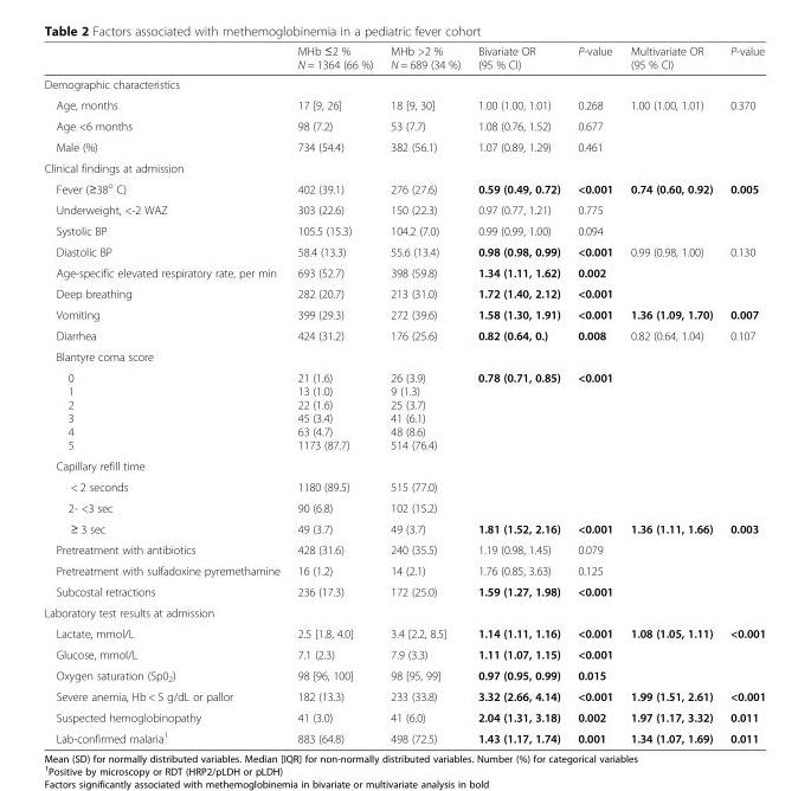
<table><thead><tr><td></td><td>MHb ≤2 % N = 1364 (66 %)</td><td>MHb &gt;2 % N = 689 (34 %)</td><td>Bivariate OR (95 % CI)</td><td>P-value</td><td>Multivariate OR (95 % CI)</td><td>P-value</td></tr></thead><tbody><tr><td colspan="7">Demographic characteristics</td></tr><tr><td>Age, months</td><td>17 [9, 26]</td><td>18 [9, 30]</td><td>1.00 (1.00, 1.01)</td><td>0.268</td><td>1.00 (1.00, 1.01)</td><td>0.370</td></tr><tr><td>Age &lt;6 months</td><td>98 (7.2)</td><td>53 (7.7)</td><td>1.08 (0.76, 1.52)</td><td>0.677</td><td></td><td></td></tr><tr><td>Male (%)</td><td>734 (54.4)</td><td>382 (56.1)</td><td>1.07 (0.89, 1.29)</td><td>0.461</td><td></td><td></td></tr><tr><td colspan="7">Clinical findings at admission</td></tr><tr><td>Fever (≥38<sup>o</sup> C)</td><td>402 (39.1)</td><td>276 (27.6)</td><td>0.59 (0.49, 0.72)</td><td>&lt;0.001</td><td>0.74 (0.60, 0.92)</td><td>0.005</td></tr><tr><td>Underweight, &lt;-2 WAZ</td><td>303 (22.6)</td><td>150 (22.3)</td><td>0.97 (0.77, 1.21)</td><td>0.775</td><td></td><td></td></tr><tr><td>Systolic BP</td><td>105.5 (15.3)</td><td>104.2 (7.0)</td><td>0.99 (0.99, 1.00)</td><td>0.094</td><td></td><td></td></tr><tr><td>Diastolic BP</td><td>58.4 (13.3)</td><td>55.6 (13.4)</td><td>0.98 (0.98, 0.99)</td><td>&lt;0.001</td><td>0.99 (0.98, 1.00)</td><td>0.130</td></tr><tr><td>Age-specific elevated respiratory rate, per min</td><td>693 (52.7)</td><td>398 (59.8)</td><td>1.34 (1.11, 1.62)</td><td>0.002</td><td></td><td></td></tr><tr><td>Deep breathing</td><td>282 (20.7)</td><td>213 (31.0)</td><td>1.72 (1.40, 2.12)</td><td>&lt;0.001</td><td></td><td></td></tr><tr><td>Vomiting</td><td>399 (29.3)</td><td>272 (39.6)</td><td>1.58 (1.30, 1.91)</td><td>&lt;0.001</td><td>1.36 (1.09, 1.70)</td><td>0.007</td></tr><tr><td>Diarrhea</td><td>424 (31.2)</td><td>176 (25.6)</td><td>0.82 (0.64, 0.)</td><td>0.008</td><td>0.82 (0.64, 1.04)</td><td>0.107</td></tr><tr><td colspan="7">Blantyre coma score</td></tr><tr><td>0 1 2 3 4 5</td><td>21 (1.6) 13 (1.0) 22 (1.6) 45 (3.4) 63 (4.7) 1173 (87.7)</td><td>26 (3.9) 9 (1.3) 25 (3.7) 41 (6.1) 48 (8.6) 514 (76.4)</td><td>0.78 (0.71, 0.85)</td><td>&lt;0.001</td><td></td><td></td></tr><tr><td colspan="7">Capillary refill time</td></tr><tr><td>&lt; 2 seconds</td><td>1180 (89.5)</td><td>515 (77.0)</td><td></td><td></td><td></td><td></td></tr><tr><td>2- &lt;3 sec</td><td>90 (6.8)</td><td>102 (15.2)</td><td></td><td></td><td></td><td></td></tr><tr><td>≥ 3 sec</td><td>49 (3.7)</td><td>49 (3.7)</td><td>1.81 (1.52, 2.16)</td><td>&lt;0.001</td><td>1.36 (1.11, 1.66)</td><td>0.003</td></tr><tr><td>Pretreatment with antibiotics</td><td>428 (31.6)</td><td>240 (35.5)</td><td>1.19 (0.98, 1.45)</td><td>0.079</td><td></td><td></td></tr><tr><td>Pretreatment with sulfadoxine pyremethamine</td><td>16 (1.2)</td><td>14 (2.1)</td><td>1.76 (0.85, 3.63)</td><td>0.125</td><td></td><td></td></tr><tr><td>Subcostal retractions</td><td>236 (17.3)</td><td>172 (25.0)</td><td>1.59 (1.27, 1.98)</td><td>&lt;0.001</td><td></td><td></td></tr><tr><td colspan="7">Laboratory test results at admission</td></tr><tr><td>Lactate, mmol/L</td><td>2.5 [1.8, 4.0]</td><td>3.4 [2.2, 8.5]</td><td>1.14 (1.11, 1.16)</td><td>&lt;0.001</td><td>1.08 (1.05, 1.11)</td><td>&lt;0.001</td></tr><tr><td>Glucose, mmol/L</td><td>7.1 (2.3)</td><td>7.9 (3.3)</td><td>1.11 (1.07, 1.15)</td><td>&lt;0.001</td><td></td><td></td></tr><tr><td>Oxygen saturation (Sp0<sub>2</sub>)</td><td>98 [96, 100]</td><td>98 [95, 99]</td><td>0.97 (0.95, 0.99)</td><td>0.015</td><td></td><td></td></tr><tr><td>Severe anemia, Hb &lt; 5 g/dL or pallor</td><td>182 (13.3)</td><td>233 (33.8)</td><td>3.32 (2.66, 4.14)</td><td>&lt;0.001</td><td>1.99 (1.51, 2.61)</td><td>&lt;0.001</td></tr><tr><td>Suspected hemoglobinopathy</td><td>41 (3.0)</td><td>41 (6.0)</td><td>2.04 (1.31, 3.18)</td><td>0.002</td><td>1.97 (1.17, 3.32)</td><td>0.011</td></tr><tr><td>Lab-confirmed malaria<sup>1</sup></td><td>883 (64.8)</td><td>498 (72.5)</td><td>1.43 (1.17, 1.74)</td><td>0.001</td><td>1.34 (1.07, 1.69)</td><td>0.011</td></tr></tbody></table>